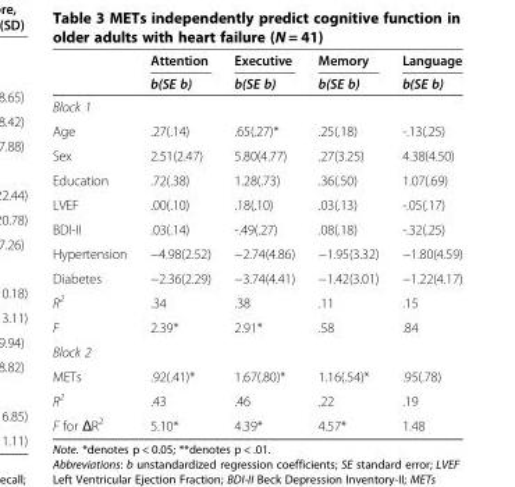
<table><thead><tr><td rowspan="2"></td><td rowspan="2">Attention b(SE b)</td><td rowspan="2">Executive b(SE b)</td><td rowspan="2">Memory b(SE b)</td><td rowspan="2">Language b(SE b)</td></tr><tr></tr></thead><tbody><tr><td colspan="5">Block 1</td></tr><tr><td>Age</td><td>.27(.14)</td><td>.65(.27)*</td><td>.25(.18)</td><td>-.13(.25)</td></tr><tr><td>Sex</td><td>2.51(2.47)</td><td>5.80(4.77)</td><td>.27(3.25)</td><td>4.38(4.50)</td></tr><tr><td>Education</td><td>.72(.38)</td><td>1.28(.73)</td><td>.36(.50)</td><td>1.07(.69)</td></tr><tr><td>LVEF</td><td>.00(.10)</td><td>.18(.10)</td><td>.03(.13)</td><td>-.05(.17)</td></tr><tr><td>BDI-II</td><td>.03(.14)</td><td>-.49(.27)</td><td>.08(.18)</td><td>-.32(.25)</td></tr><tr><td>Hypertension</td><td>−4.98(2.52)</td><td>−2.74(4.86)</td><td>−1.95(3.32)</td><td>−1.80(4.59)</td></tr><tr><td>Diabetes</td><td>−2.36(2.29)</td><td>−3.74(4.41)</td><td>−1.42(3.01)</td><td>−1.22(4.17)</td></tr><tr><td>R<sup>2</sup></td><td>.34</td><td>.38</td><td>.11</td><td>.15</td></tr><tr><td>F</td><td>2.39*</td><td>2.91*</td><td>.58</td><td>.84</td></tr><tr><td colspan="5">Block 2</td></tr><tr><td>METs</td><td>.92(.41)*</td><td>1.67(.80)*</td><td>1.16(.54)*</td><td>.95(.78)</td></tr><tr><td>R<sup>2</sup></td><td>.43</td><td>.46</td><td>.22</td><td>.19</td></tr><tr><td>F for ΔR<sup>2</sup></td><td>5.10*</td><td>4.39*</td><td>4.57*</td><td>1.48</td></tr></tbody></table>